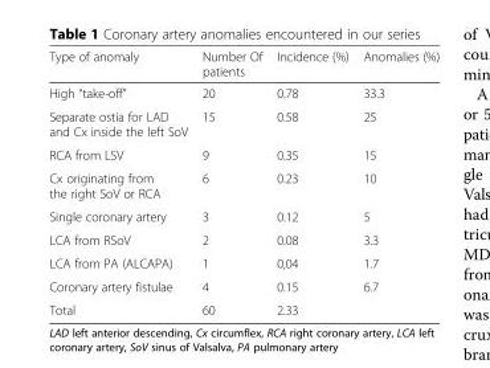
<table><thead><tr><td>Type of anomaly</td><td>Number Of patients</td><td>Incidence (%)</td><td>Anomalies (%)</td></tr></thead><tbody><tr><td>High “take-off”</td><td>20</td><td>0.78</td><td>33.3</td></tr><tr><td>Separate ostia for LAD and Cx inside the left SoV</td><td>15</td><td>0.58</td><td>25</td></tr><tr><td>RCA from LSV</td><td>9</td><td>0.35</td><td>15</td></tr><tr><td>Cx originating from the right SoV or RCA</td><td>6</td><td>0.23</td><td>10</td></tr><tr><td>Single coronary artery</td><td>3</td><td>0.12</td><td>5</td></tr><tr><td>LCA from RSoV</td><td>2</td><td>0.08</td><td>3.3</td></tr><tr><td>LCA from PA (ALCAPA)</td><td>1</td><td>0,04</td><td>1.7</td></tr><tr><td>Coronary artery fistulae</td><td>4</td><td>0.15</td><td>6.7</td></tr><tr><td>Total</td><td>60</td><td>2.33</td><td></td></tr></tbody></table>